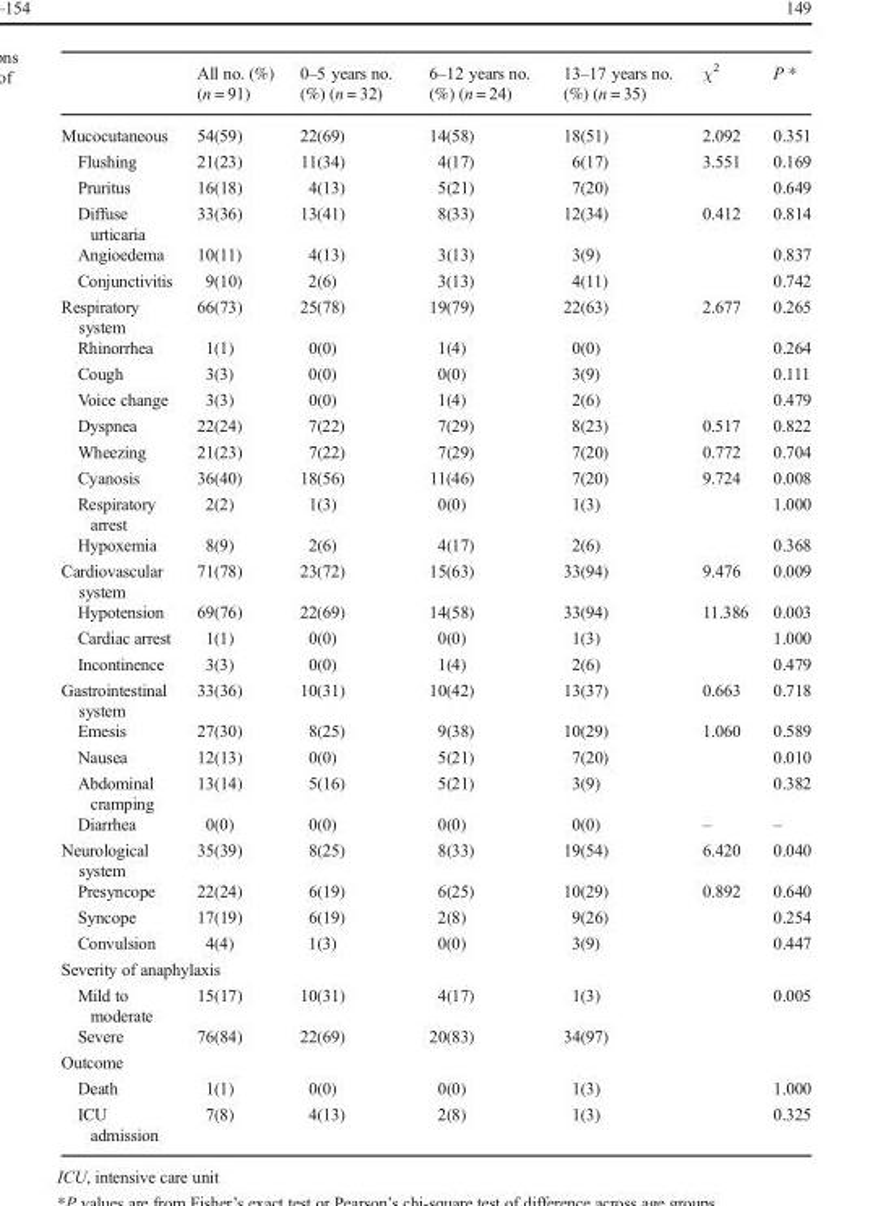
<table><thead><tr><td></td><td>All no. (%) (n = 91)</td><td>0–5 years no. (%) (n = 32)</td><td>6–12 years no. (%) (n = 24)</td><td>13–17 years no. (%) (n = 35)</td><td>χ<sup>2</sup></td><td>P *</td></tr></thead><tbody><tr><td>Mucocutaneous</td><td>54(59)</td><td>22(69)</td><td>14(58)</td><td>18(51)</td><td>2.092</td><td>0.351</td></tr><tr><td>Flushing</td><td>21(23)</td><td>11(34)</td><td>4(17)</td><td>6(17)</td><td>3.551</td><td>0.169</td></tr><tr><td>Pruritus</td><td>16(18)</td><td>4(13)</td><td>5(21)</td><td>7(20)</td><td></td><td>0.649</td></tr><tr><td>Diffuse urticaria</td><td>33(36)</td><td>13(41)</td><td>8(33)</td><td>12(34)</td><td>0.412</td><td>0.814</td></tr><tr><td>Angioedema</td><td>10(11)</td><td>4(13)</td><td>3(13)</td><td>3(9)</td><td></td><td>0.837</td></tr><tr><td>Conjunctivitis</td><td>9(10)</td><td>2(6)</td><td>3(13)</td><td>4(11)</td><td></td><td>0.742</td></tr><tr><td>Respiratory system</td><td>66(73)</td><td>25(78)</td><td>19(79)</td><td>22(63)</td><td>2.677</td><td>0.265</td></tr><tr><td>Rhinorrhea</td><td>1(1)</td><td>0(0)</td><td>1(4)</td><td>0(0)</td><td></td><td>0.264</td></tr><tr><td>Cough</td><td>3(3)</td><td>0(0)</td><td>0(0)</td><td>3(9)</td><td></td><td>0.111</td></tr><tr><td>Voice change</td><td>3(3)</td><td>0(0)</td><td>1(4)</td><td>2(6)</td><td></td><td>0.479</td></tr><tr><td>Dyspnea</td><td>22(24)</td><td>7(22)</td><td>7(29)</td><td>8(23)</td><td>0.517</td><td>0.822</td></tr><tr><td>Wheezing</td><td>21(23)</td><td>7(22)</td><td>7(29)</td><td>7(20)</td><td>0.772</td><td>0.704</td></tr><tr><td>Cyanosis</td><td>36(40)</td><td>18(56)</td><td>11(46)</td><td>7(20)</td><td>9.724</td><td>0.008</td></tr><tr><td>Respiratory arrest</td><td>2(2)</td><td>1(3)</td><td>0(0)</td><td>1(3)</td><td></td><td>1.000</td></tr><tr><td>Hypoxemia</td><td>8(9)</td><td>2(6)</td><td>4(17)</td><td>2(6)</td><td></td><td>0.368</td></tr><tr><td>Cardiovascular system</td><td>71(78)</td><td>23(72)</td><td>15(63)</td><td>33(94)</td><td>9.476</td><td>0.009</td></tr><tr><td>Hypotension</td><td>69(76)</td><td>22(69)</td><td>14(58)</td><td>33(94)</td><td>11.386</td><td>0.003</td></tr><tr><td>Cardiac arrest</td><td>1(1)</td><td>0(0)</td><td>0(0)</td><td>1(3)</td><td></td><td>1.000</td></tr><tr><td>Incontinence</td><td>3(3)</td><td>0(0)</td><td>1(4)</td><td>2(6)</td><td></td><td>0.479</td></tr><tr><td>Gastrointestinal system</td><td>33(36)</td><td>10(31)</td><td>10(42)</td><td>13(37)</td><td>0.663</td><td>0.718</td></tr><tr><td>Emesis</td><td>27(30)</td><td>8(25)</td><td>9(38)</td><td>10(29)</td><td>1.060</td><td>0.589</td></tr><tr><td>Nausea</td><td>12(13)</td><td>0(0)</td><td>5(21)</td><td>7(20)</td><td></td><td>0.010</td></tr><tr><td>Abdominal cramping</td><td>13(14)</td><td>5(16)</td><td>5(21)</td><td>3(9)</td><td></td><td>0.382</td></tr><tr><td>Diarrhea</td><td>0(0)</td><td>0(0)</td><td>0(0)</td><td>0(0)</td><td>–</td><td>–</td></tr><tr><td>Neurological system</td><td>35(39)</td><td>8(25)</td><td>8(33)</td><td>19(54)</td><td>6.420</td><td>0.040</td></tr><tr><td>Presyncope</td><td>22(24)</td><td>6(19)</td><td>6(25)</td><td>10(29)</td><td>0.892</td><td>0.640</td></tr><tr><td>Syncope</td><td>17(19)</td><td>6(19)</td><td>2(8)</td><td>9(26)</td><td></td><td>0.254</td></tr><tr><td>Convulsion</td><td>4(4)</td><td>1(3)</td><td>0(0)</td><td>3(9)</td><td></td><td>0.447</td></tr><tr><td colspan="7">Severity of anaphylaxis</td></tr><tr><td>Mild to moderate</td><td>15(17)</td><td>10(31)</td><td>4(17)</td><td>1(3)</td><td></td><td>0.005</td></tr><tr><td>Severe</td><td>76(84)</td><td>22(69)</td><td>20(83)</td><td>34(97)</td><td></td><td></td></tr><tr><td colspan="7">Outcome</td></tr><tr><td>Death</td><td>1(1)</td><td>0(0)</td><td>0(0)</td><td>1(3)</td><td></td><td>1.000</td></tr><tr><td>ICU admission</td><td>7(8)</td><td>4(13)</td><td>2(8)</td><td>1(3)</td><td></td><td>0.325</td></tr></tbody></table>